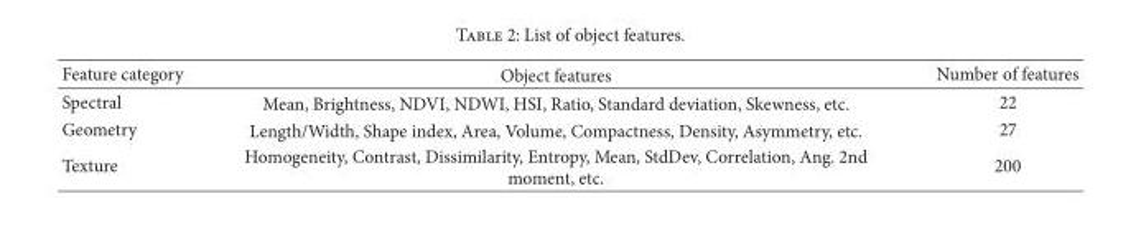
<table><thead><tr><td>Feature category</td><td>Object features</td><td>Number of features</td></tr></thead><tbody><tr><td>Spectral</td><td>Mean, Brightness, NDVI, NDWI, HSI, Ratio, Standard deviation, Skewness, etc.</td><td>22</td></tr><tr><td>Geometry</td><td>Length/Width, Shape index, Area, Volume, Compactness, Density, Asymmetry, etc.</td><td>27</td></tr><tr><td>Texture</td><td>Homogeneity, Contrast, Dissimilarity, Entropy, Mean, StdDev, Correlation, Ang. 2nd moment, etc.</td><td>200</td></tr></tbody></table>